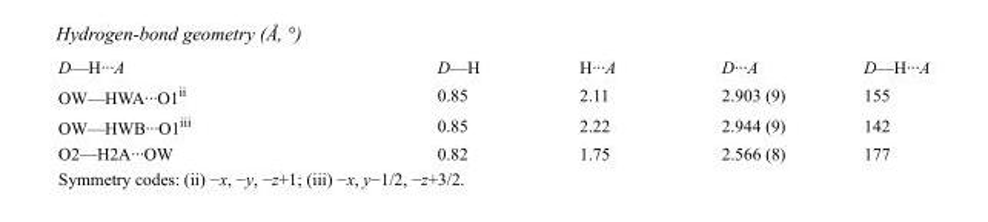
<table><tbody><tr><td>D—H···A</td><td>D—H</td><td>H···A</td><td>D···A</td><td>D—H···A</td></tr><tr><td>OW—HWA···O1<sup>ii</sup></td><td>0.85</td><td>2.11</td><td>2.903 (9)</td><td>155</td></tr><tr><td>OW—HWB···O1<sup>iii</sup></td><td>0.85</td><td>2.22</td><td>2.944 (9)</td><td>142</td></tr><tr><td>O2—H2A···OW</td><td>0.82</td><td>1.75</td><td>2.566 (8)</td><td>177</td></tr></tbody></table>